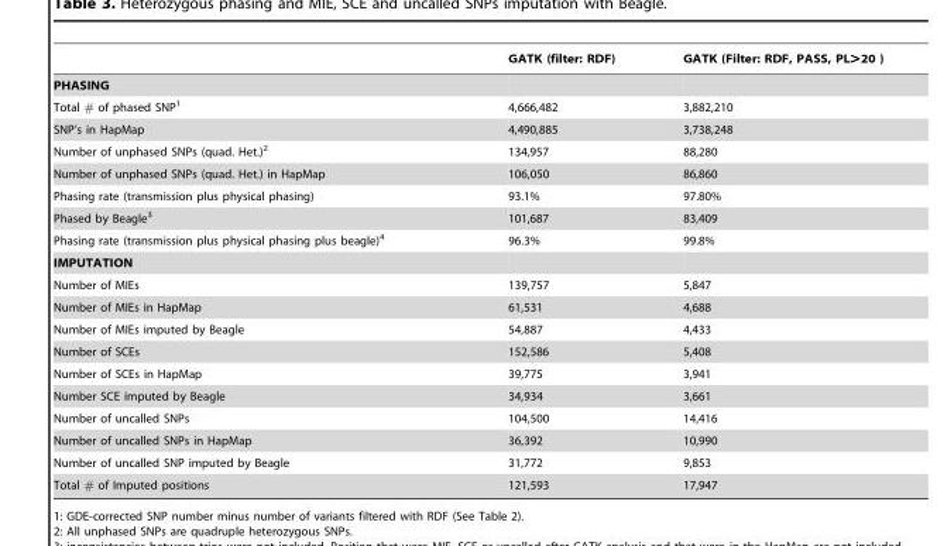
<table><thead><tr><td></td><td>GATK (filter: RDF)</td><td>GATK (Filter: RDF, PASS, PL&gt;20 )</td></tr></thead><tbody><tr><td colspan="3">PHASING</td></tr><tr><td>Total # of phased SNP<sup>1</sup></td><td>4,666,482</td><td>3,882,210</td></tr><tr><td>SNP’s in HapMap</td><td>4,490,885</td><td>3,738,248</td></tr><tr><td>Number of unphased SNPs (quad. Het.)<sup>2</sup></td><td>134,957</td><td>88,280</td></tr><tr><td>Number of unphased SNPs (quad. Het.) in HapMap</td><td>106,050</td><td>86,860</td></tr><tr><td>Phasing rate (transmission plus physical phasing)</td><td>93.1%</td><td>97.80%</td></tr><tr><td>Phased by Beagle<sup>3</sup></td><td>101,687</td><td>83,409</td></tr><tr><td>Phasing rate (transmission plus physical phasing plus beagle)<sup>4</sup></td><td>96.3%</td><td>99.8%</td></tr><tr><td colspan="3">IMPUTATION</td></tr><tr><td>Number of MIEs</td><td>139,757</td><td>5,847</td></tr><tr><td>Number of MIEs in HapMap</td><td>61,531</td><td>4,688</td></tr><tr><td>Number of MIEs imputed by Beagle</td><td>54,887</td><td>4,433</td></tr><tr><td>Number of SCEs</td><td>152,586</td><td>5,408</td></tr><tr><td>Number of SCEs in HapMap</td><td>39,775</td><td>3,941</td></tr><tr><td>Number SCE imputed by Beagle</td><td>34,934</td><td>3,661</td></tr><tr><td>Number of uncalled SNPs</td><td>104,500</td><td>14,416</td></tr><tr><td>Number of uncalled SNPs in HapMap</td><td>36,392</td><td>10,990</td></tr><tr><td>Number of uncalled SNP imputed by Beagle</td><td>31,772</td><td>9,853</td></tr><tr><td>Total # of Imputed positions</td><td>121,593</td><td>17,947</td></tr></tbody></table>